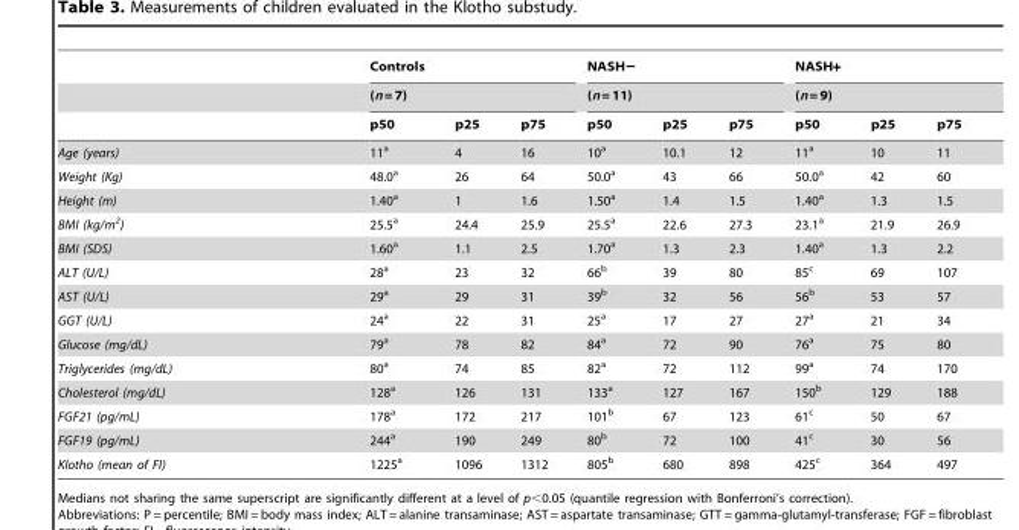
<table><thead><tr><td rowspan="3"></td><td rowspan="2" colspan="3">Controls (n = 7)</td><td rowspan="2" colspan="3">NASH− (n = 11)</td><td rowspan="2" colspan="3">NASH+ (n = 9)</td></tr><tr></tr><tr><td>p50</td><td>p25</td><td>p75</td><td>p50</td><td>p25</td><td>p75</td><td>p50</td><td>p25</td><td>p75</td></tr></thead><tbody><tr><td>Age (years)</td><td>11<sup>a</sup></td><td>4</td><td>16</td><td>10<sup>a</sup></td><td>10.1</td><td>12</td><td>11<sup>a</sup></td><td>10</td><td>11</td></tr><tr><td>Weight (Kg)</td><td>48.0<sup>a</sup></td><td>26</td><td>64</td><td>50.0<sup>a</sup></td><td>43</td><td>66</td><td>50.0<sup>a</sup></td><td>42</td><td>60</td></tr><tr><td>Height (m)</td><td>1.40<sup>a</sup></td><td>1</td><td>1.6</td><td>1.50<sup>a</sup></td><td>1.4</td><td>1.5</td><td>1.40<sup>a</sup></td><td>1.3</td><td>1.5</td></tr><tr><td>BMI (kg/m<sup>2</sup>)</td><td>25.5<sup>a</sup></td><td>24.4</td><td>25.9</td><td>25.5<sup>a</sup></td><td>22.6</td><td>27.3</td><td>23.1<sup>a</sup></td><td>21.9</td><td>26.9</td></tr><tr><td>BMI (SDS)</td><td>1.60<sup>a</sup></td><td>1.1</td><td>2.5</td><td>1.70<sup>a</sup></td><td>1.3</td><td>2.3</td><td>1.40<sup>a</sup></td><td>1.3</td><td>2.2</td></tr><tr><td>ALT (U/L)</td><td>28<sup>a</sup></td><td>23</td><td>32</td><td>66<sup>b</sup></td><td>39</td><td>80</td><td>85<sup>c</sup></td><td>69</td><td>107</td></tr><tr><td>AST (U/L)</td><td>29<sup>a</sup></td><td>29</td><td>31</td><td>39<sup>b</sup></td><td>32</td><td>56</td><td>56<sup>b</sup></td><td>53</td><td>57</td></tr><tr><td>GGT (U/L)</td><td>24<sup>a</sup></td><td>22</td><td>31</td><td>25<sup>a</sup></td><td>17</td><td>27</td><td>27<sup>a</sup></td><td>21</td><td>34</td></tr><tr><td>Glucose (mg/dL)</td><td>79<sup>a</sup></td><td>78</td><td>82</td><td>84<sup>a</sup></td><td>72</td><td>90</td><td>76<sup>a</sup></td><td>75</td><td>80</td></tr><tr><td>Triglycerides (mg/dL)</td><td>80<sup>a</sup></td><td>74</td><td>85</td><td>82<sup>a</sup></td><td>72</td><td>112</td><td>99<sup>a</sup></td><td>74</td><td>170</td></tr><tr><td>Cholesterol (mg/dL)</td><td>128<sup>a</sup></td><td>126</td><td>131</td><td>133<sup>a</sup></td><td>127</td><td>167</td><td>150<sup>b</sup></td><td>129</td><td>188</td></tr><tr><td>FGF21 (pg/mL)</td><td>178<sup>a</sup></td><td>172</td><td>217</td><td>101<sup>b</sup></td><td>67</td><td>123</td><td>61<sup>c</sup></td><td>50</td><td>67</td></tr><tr><td>FGF19 (pg/mL)</td><td>244<sup>a</sup></td><td>190</td><td>249</td><td>80<sup>b</sup></td><td>72</td><td>100</td><td>41<sup>c</sup></td><td>30</td><td>56</td></tr><tr><td>Klotho (mean of FI)</td><td>1225<sup>a</sup></td><td>1096</td><td>1312</td><td>805<sup>b</sup></td><td>680</td><td>898</td><td>425<sup>c</sup></td><td>364</td><td>497</td></tr></tbody></table>